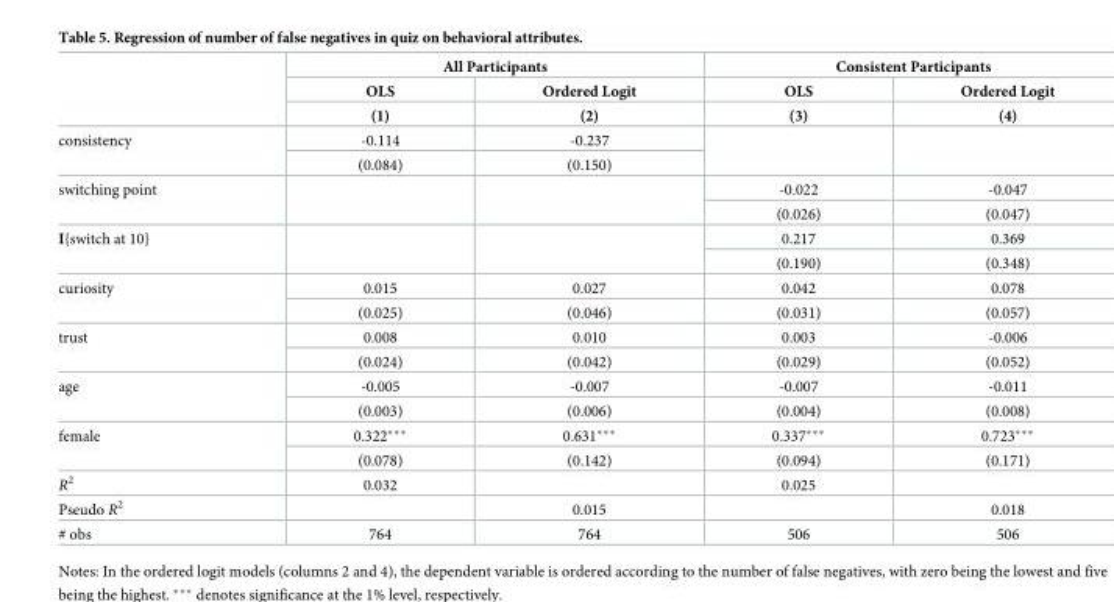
<table><thead><tr><td rowspan="3"></td><td colspan="2">All Participants</td><td colspan="2">Consistent Participants</td></tr><tr><td rowspan="2">OLS (1)</td><td rowspan="2">Ordered Logit (2)</td><td rowspan="2">OLS (3)</td><td rowspan="2">Ordered Logit (4)</td></tr><tr></tr></thead><tbody><tr><td rowspan="2">consistency</td><td>-0.114</td><td>-0.237</td><td rowspan="2"></td><td rowspan="2"></td></tr><tr><td>(0.084)</td><td>(0.150)</td></tr><tr><td rowspan="2">switching point</td><td rowspan="2"></td><td rowspan="2"></td><td>-0.022</td><td>-0.047</td></tr><tr><td>(0.026)</td><td>(0.047)</td></tr><tr><td rowspan="2">I{switch at 10}</td><td rowspan="2"></td><td rowspan="2"></td><td>0.217</td><td>0.369</td></tr><tr><td>(0.190)</td><td>(0.348)</td></tr><tr><td rowspan="2">curiosity</td><td>0.015</td><td>0.027</td><td>0.042</td><td>0.078</td></tr><tr><td>(0.025)</td><td>(0.046)</td><td>(0.031)</td><td>(0.057)</td></tr><tr><td rowspan="2">trust</td><td>0.008</td><td>0.010</td><td>0.003</td><td>-0.006</td></tr><tr><td>(0.024)</td><td>(0.042)</td><td>(0.029)</td><td>(0.052)</td></tr><tr><td rowspan="2">age</td><td>-0.005</td><td>-0.007</td><td>-0.007</td><td>-0.011</td></tr><tr><td>(0.003)</td><td>(0.006)</td><td>(0.004)</td><td>(0.008)</td></tr><tr><td rowspan="2">female</td><td>0.322***</td><td>0.631***</td><td>0.337***</td><td>0.723***</td></tr><tr><td>(0.078)</td><td>(0.142)</td><td>(0.094)</td><td>(0.171)</td></tr><tr><td>R<sup>2</sup></td><td>0.032</td><td></td><td>0.025</td><td></td></tr><tr><td>Pseudo R<sup>2</sup></td><td></td><td>0.015</td><td></td><td>0.018</td></tr><tr><td># obs</td><td>764</td><td>764</td><td>506</td><td>506</td></tr></tbody></table>